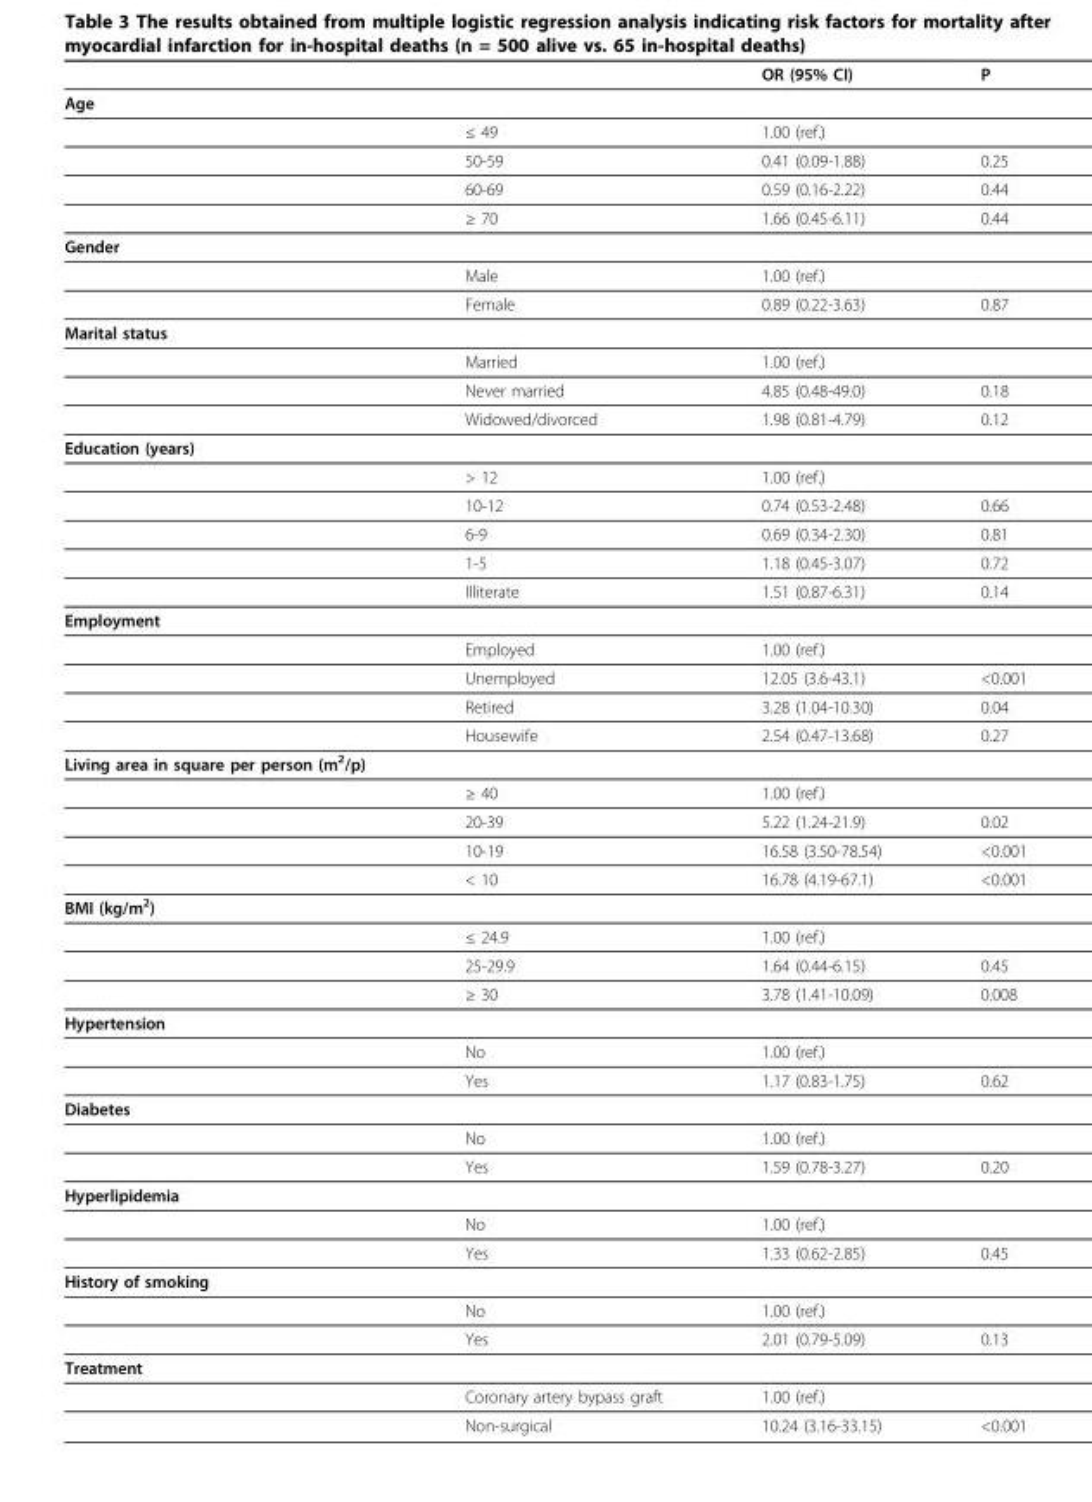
<table><thead><tr><td></td><td></td><td>OR (95% CI)</td><td>P</td></tr></thead><tbody><tr><td colspan="4">Age</td></tr><tr><td></td><td>≤ 49</td><td>1.00 (ref.)</td><td></td></tr><tr><td></td><td>50-59</td><td>0.41 (0.09-1.88)</td><td>0.25</td></tr><tr><td></td><td>60-69</td><td>0.59 (0.16-2.22)</td><td>0.44</td></tr><tr><td></td><td>≥ 70</td><td>1.66 (0.45-6.11)</td><td>0.44</td></tr><tr><td colspan="4">Gender</td></tr><tr><td></td><td>Male</td><td>1.00 (ref.)</td><td></td></tr><tr><td></td><td>Female</td><td>0.89 (0.22-3.63)</td><td>0.87</td></tr><tr><td colspan="4">Marital status</td></tr><tr><td></td><td>Married</td><td>1.00 (ref.)</td><td></td></tr><tr><td></td><td>Never married</td><td>4.85 (0.48-49.0)</td><td>0.18</td></tr><tr><td></td><td>Widowed/divorced</td><td>1.98 (0.81-4.79)</td><td>0.12</td></tr><tr><td colspan="4">Education (years)</td></tr><tr><td></td><td>&gt; 12</td><td>1.00 (ref.)</td><td></td></tr><tr><td></td><td>10-12</td><td>0.74 (0.53-2.48)</td><td>0.66</td></tr><tr><td></td><td>6-9</td><td>0.69 (0.34-2.30)</td><td>0.81</td></tr><tr><td></td><td>1-5</td><td>1.18 (0.45-3.07)</td><td>0.72</td></tr><tr><td></td><td>Illiterate</td><td>1.51 (0.87-6.31)</td><td>0.14</td></tr><tr><td colspan="4">Employment</td></tr><tr><td></td><td>Employed</td><td>1.00 (ref.)</td><td></td></tr><tr><td></td><td>Unemployed</td><td>12.05 (3.6-43.1)</td><td>&lt;0.001</td></tr><tr><td></td><td>Retired</td><td>3.28 (1.04-10.30)</td><td>0.04</td></tr><tr><td></td><td>Housewife</td><td>2.54 (0.47-13.68)</td><td>0.27</td></tr><tr><td colspan="4">Living area in square per person (m<sup>2</sup>/p)</td></tr><tr><td></td><td>≥ 40</td><td>1.00 (ref.)</td><td></td></tr><tr><td></td><td>20-39</td><td>5.22 (1.24-21.9)</td><td>0.02</td></tr><tr><td></td><td>10-19</td><td>16.58 (3.50-78.54)</td><td>&lt;0.001</td></tr><tr><td></td><td>&lt; 10</td><td>16.78 (4.19-67.1)</td><td>&lt;0.001</td></tr><tr><td colspan="4">BMI (kg/m<sup>2</sup>)</td></tr><tr><td></td><td>≤ 24.9</td><td>1.00 (ref.)</td><td></td></tr><tr><td></td><td>25-29.9</td><td>1.64 (0.44-6.15)</td><td>0.45</td></tr><tr><td></td><td>≥ 30</td><td>3.78 (1.41-10.09)</td><td>0.008</td></tr><tr><td colspan="4">Hypertension</td></tr><tr><td></td><td>No</td><td>1.00 (ref.)</td><td></td></tr><tr><td></td><td>Yes</td><td>1.17 (0.83-1.75)</td><td>0.62</td></tr><tr><td colspan="4">Diabetes</td></tr><tr><td></td><td>No</td><td>1.00 (ref.)</td><td></td></tr><tr><td></td><td>Yes</td><td>1.59 (0.78-3.27)</td><td>0.20</td></tr><tr><td colspan="4">Hyperlipidemia</td></tr><tr><td></td><td>No</td><td>1.00 (ref.)</td><td></td></tr><tr><td></td><td>Yes</td><td>1.33 (0.62-2.85)</td><td>0.45</td></tr><tr><td colspan="4">History of smoking</td></tr><tr><td></td><td>No</td><td>1.00 (ref.)</td><td></td></tr><tr><td></td><td>Yes</td><td>2.01 (0.79-5.09)</td><td>0.13</td></tr><tr><td colspan="4">Treatment</td></tr><tr><td></td><td>Coronary artery bypass graft</td><td>1.00 (ref.)</td><td></td></tr><tr><td></td><td>Non-surgical</td><td>10.24 (3.16-33.15)</td><td>&lt;0.001</td></tr></tbody></table>